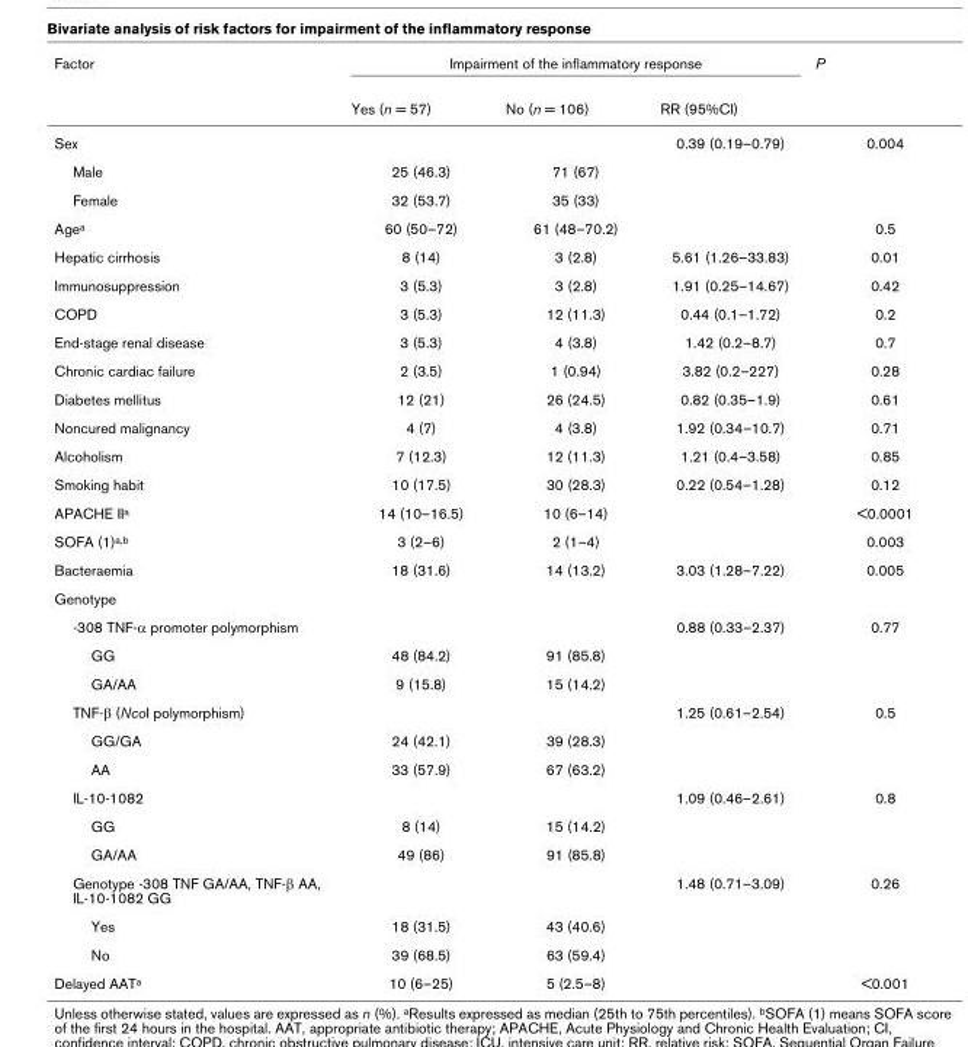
<table><thead><tr><td rowspan="2">Factor</td><td colspan="3">Impairment of the inflammatory response</td><td rowspan="2">P</td></tr><tr><td>Yes (n = 57)</td><td>No (n = 106)</td><td>RR (95%CI)</td></tr></thead><tbody><tr><td>Sex</td><td></td><td></td><td>0.39 (0.19–0.79)</td><td>0.004</td></tr><tr><td>Male</td><td>25 (46.3)</td><td>71 (67)</td><td></td><td></td></tr><tr><td>Female</td><td>32 (53.7)</td><td>35 (33)</td><td></td><td></td></tr><tr><td>Agea</td><td>60 (50–72)</td><td>61 (48–70.2)</td><td></td><td>0.5</td></tr><tr><td>Hepatic cirrhosis</td><td>8 (14)</td><td>3 (2.8)</td><td>5.61 (1.26–33.83)</td><td>0.01</td></tr><tr><td>Immunosuppression</td><td>3 (5.3)</td><td>3 (2.8)</td><td>1.91 (0.25–14.67)</td><td>0.42</td></tr><tr><td>COPD</td><td>3 (5.3)</td><td>12 (11.3)</td><td>0.44 (0.1–1.72)</td><td>0.2</td></tr><tr><td>End-stage renal disease</td><td>3 (5.3)</td><td>4 (3.8)</td><td>1.42 (0.2–8.7)</td><td>0.7</td></tr><tr><td>Chronic cardiac failure</td><td>2 (3.5)</td><td>1 (0.94)</td><td>3.82 (0.2–227)</td><td>0.28</td></tr><tr><td>Diabetes mellitus</td><td>12 (21)</td><td>26 (24.5)</td><td>0.82 (0.35–1.9)</td><td>0.61</td></tr><tr><td>Noncured malignancy</td><td>4 (7)</td><td>4 (3.8)</td><td>1.92 (0.34–10.7)</td><td>0.71</td></tr><tr><td>Alcoholism</td><td>7 (12.3)</td><td>12 (11.3)</td><td>1.21 (0.4–3.58)</td><td>0.85</td></tr><tr><td>Smoking habit</td><td>10 (17.5)</td><td>30 (28.3)</td><td>0.22 (0.54–1.28)</td><td>0.12</td></tr><tr><td>APACHE IIa</td><td>14 (10–16.5)</td><td>10 (6–14)</td><td></td><td>&lt;0.0001</td></tr><tr><td>SOFA (1)a,b</td><td>3 (2–6)</td><td>2 (1–4)</td><td></td><td>0.003</td></tr><tr><td>Bacteraemia</td><td>18 (31.6)</td><td>14 (13.2)</td><td>3.03 (1.28–7.22)</td><td>0.005</td></tr><tr><td colspan="5">Genotype</td></tr><tr><td>-308 TNF-α promoter polymorphism</td><td></td><td></td><td>0.88 (0.33–2.37)</td><td>0.77</td></tr><tr><td>GG</td><td>48 (84.2)</td><td>91 (85.8)</td><td></td><td></td></tr><tr><td>GA/AA</td><td>9 (15.8)</td><td>15 (14.2)</td><td></td><td></td></tr><tr><td>TNF-β (NcoI polymorphism)</td><td></td><td></td><td>1.25 (0.61–2.54)</td><td>0.5</td></tr><tr><td>GG/GA</td><td>24 (42.1)</td><td>39 (28.3)</td><td></td><td></td></tr><tr><td>AA</td><td>33 (57.9)</td><td>67 (63.2)</td><td></td><td></td></tr><tr><td>IL-10-1082</td><td></td><td></td><td>1.09 (0.46–2.61)</td><td>0.8</td></tr><tr><td>GG</td><td>8 (14)</td><td>15 (14.2)</td><td></td><td></td></tr><tr><td>GA/AA</td><td>49 (86)</td><td>91 (85.8)</td><td></td><td></td></tr><tr><td>Genotype -308 TNF GA/AA, TNF-β AA, IL-10-1082 GG</td><td></td><td></td><td>1.48 (0.71–3.09)</td><td>0.26</td></tr><tr><td>Yes</td><td>18 (31.5)</td><td>43 (40.6)</td><td></td><td></td></tr><tr><td>No</td><td>39 (68.5)</td><td>63 (59.4)</td><td></td><td></td></tr><tr><td>Delayed AATa</td><td>10 (6–25)</td><td>5 (2.5–8)</td><td></td><td>&lt;0.001</td></tr></tbody></table>